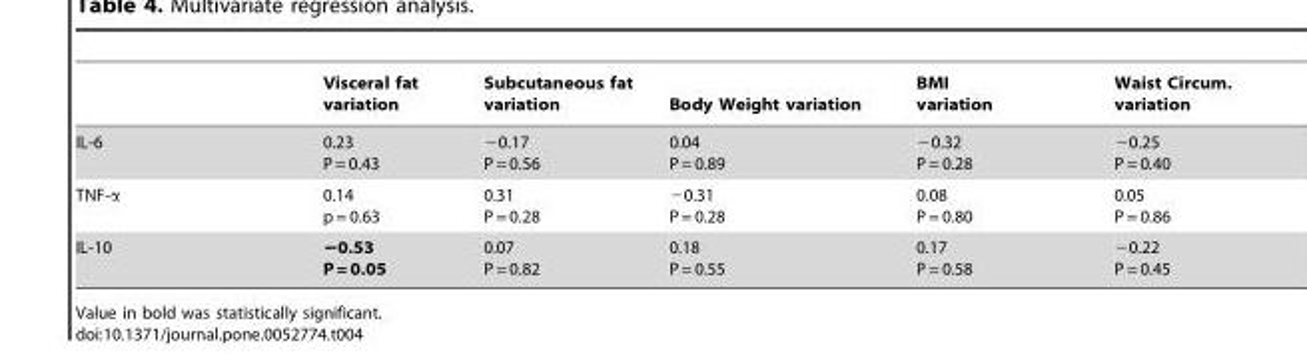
<table><thead><tr><td></td><td>Visceral fat variation</td><td>Subcutaneous fat variation</td><td>Body Weight variation</td><td>BMI variation</td><td>Waist Circum. variation</td></tr></thead><tbody><tr><td>IL-6</td><td>0.23 P = 0.43</td><td>−0.17 P = 0.56</td><td>0.04 P = 0.89</td><td>−0.32 P = 0.28</td><td>−0.25 P = 0.40</td></tr><tr><td>TNF-α</td><td>0.14 p = 0.63</td><td>0.31 P = 0.28</td><td>−0.31 P = 0.28</td><td>0.08 P = 0.80</td><td>0.05 P = 0.86</td></tr><tr><td>IL-10</td><td>−0.53 P = 0.05</td><td>0.07 P = 0.82</td><td>0.18 P = 0.55</td><td>0.17 P = 0.58</td><td>−0.22 P = 0.45</td></tr></tbody></table>